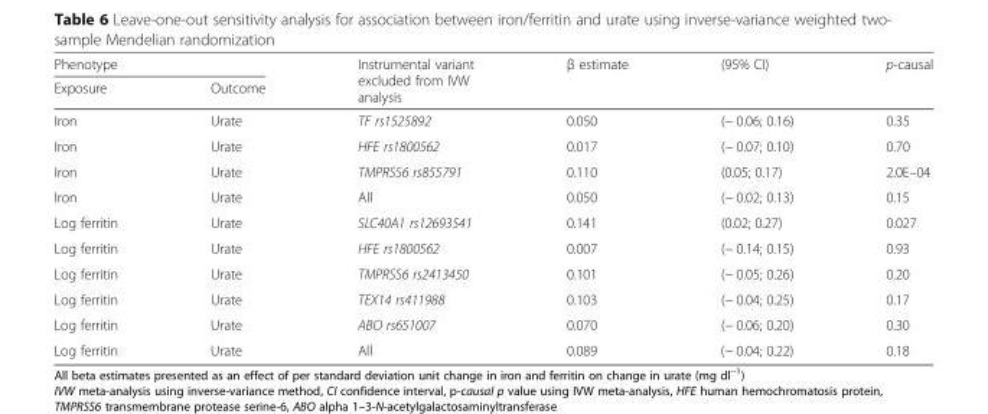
<table><thead><tr><td colspan="2">Phenotype</td><td rowspan="2">Instrumental variant excluded from IVW analysis</td><td rowspan="2">β estimate</td><td rowspan="2">(95% CI)</td><td rowspan="2">p-causal</td></tr><tr><td>Exposure</td><td>Outcome</td></tr></thead><tbody><tr><td>Iron</td><td>Urate</td><td>TF rs1525892</td><td>0.050</td><td>(− 0.06; 0.16)</td><td>0.35</td></tr><tr><td>Iron</td><td>Urate</td><td>HFE rs1800562</td><td>0.017</td><td>(− 0.07; 0.10)</td><td>0.70</td></tr><tr><td>Iron</td><td>Urate</td><td>TMPRSS6 rs855791</td><td>0.110</td><td>(0.05; 0.17)</td><td>2.0E–04</td></tr><tr><td>Iron</td><td>Urate</td><td>All</td><td>0.050</td><td>(− 0.02; 0.13)</td><td>0.15</td></tr><tr><td>Log ferritin</td><td>Urate</td><td>SLC40A1 rs12693541</td><td>0.141</td><td>(0.02; 0.27)</td><td>0.027</td></tr><tr><td>Log ferritin</td><td>Urate</td><td>HFE rs1800562</td><td>0.007</td><td>(− 0.14; 0.15)</td><td>0.93</td></tr><tr><td>Log ferritin</td><td>Urate</td><td>TMPRSS6 rs2413450</td><td>0.101</td><td>(− 0.05; 0.26)</td><td>0.20</td></tr><tr><td>Log ferritin</td><td>Urate</td><td>TEX14 rs411988</td><td>0.103</td><td>(− 0.04; 0.25)</td><td>0.17</td></tr><tr><td>Log ferritin</td><td>Urate</td><td>ABO rs651007</td><td>0.070</td><td>(− 0.06; 0.20)</td><td>0.30</td></tr><tr><td>Log ferritin</td><td>Urate</td><td>All</td><td>0.089</td><td>(− 0.04; 0.22)</td><td>0.18</td></tr></tbody></table>